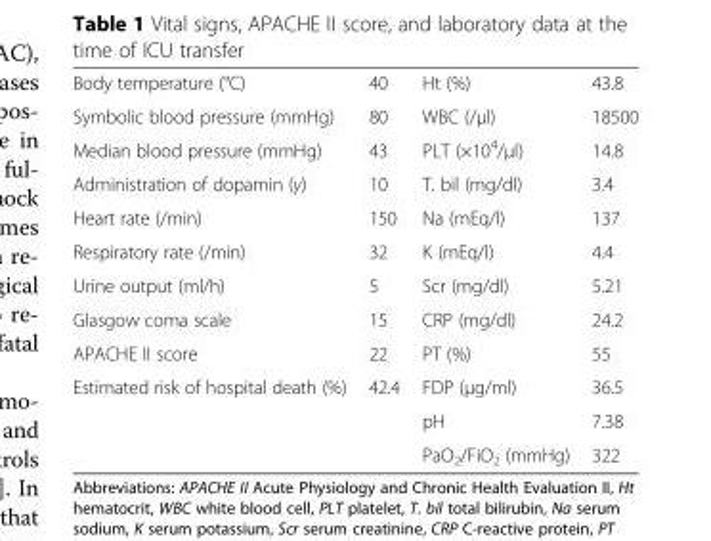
<table><tbody><tr><td>Body temperature (°C)</td><td>40</td><td>Ht (%)</td><td>43.8</td></tr><tr><td>Symbolic blood pressure (mmHg)</td><td>80</td><td>WBC (/μl)</td><td>18500</td></tr><tr><td>Median blood pressure (mmHg)</td><td>43</td><td>PLT (×10<sup>4</sup>/μl)</td><td>14.8</td></tr><tr><td>Administration of dopamin (γ)</td><td>10</td><td>T. bil (mg/dl)</td><td>3.4</td></tr><tr><td>Heart rate (/min)</td><td>150</td><td>Na (mEq/l)</td><td>137</td></tr><tr><td>Respiratory rate (/min)</td><td>32</td><td>K (mEq/l)</td><td>4.4</td></tr><tr><td>Urine output (ml/h)</td><td>5</td><td>Scr (mg/dl)</td><td>5.21</td></tr><tr><td>Glasgow coma scale</td><td>15</td><td>CRP (mg/dl)</td><td>24.2</td></tr><tr><td>APACHE II score</td><td>22</td><td>PT (%)</td><td>55</td></tr><tr><td rowspan="3">Estimated risk of hospital death (%)</td><td>42.4</td><td>FDP (μg/ml)</td><td>36.5</td></tr><tr><td></td><td>pH</td><td>7.38</td></tr><tr><td></td><td>PaO<sub>2</sub>/FiO<sub>2</sub> (mmHg)</td><td>322</td></tr></tbody></table>